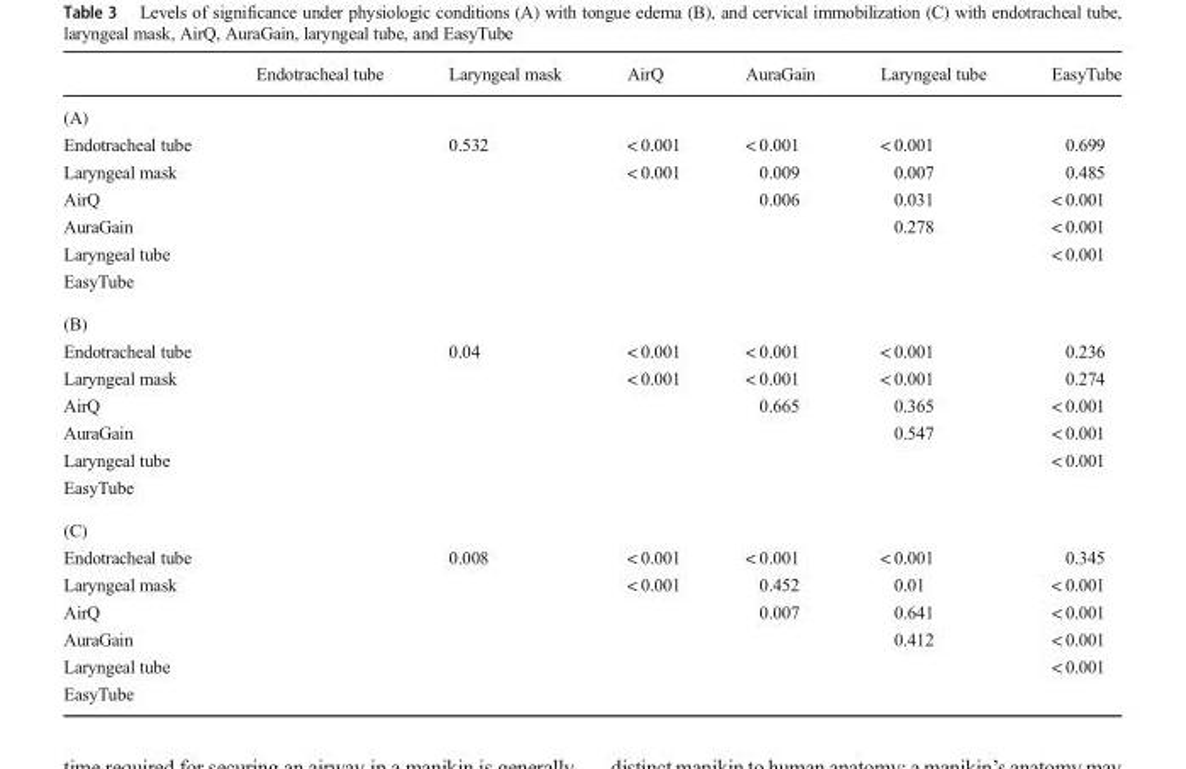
<table><thead><tr><td></td><td>Endotracheal tube</td><td>Laryngeal mask</td><td>AirQ</td><td>AuraGain</td><td>Laryngeal tube</td><td>EasyTube</td></tr></thead><tbody><tr><td colspan="7">(A)</td></tr><tr><td>Endotracheal tube</td><td></td><td>0.532</td><td>&lt; 0.001</td><td>&lt; 0.001</td><td>&lt; 0.001</td><td>0.699</td></tr><tr><td>Laryngeal mask</td><td></td><td></td><td>&lt; 0.001</td><td>0.009</td><td>0.007</td><td>0.485</td></tr><tr><td>AirQ</td><td></td><td></td><td></td><td>0.006</td><td>0.031</td><td>&lt; 0.001</td></tr><tr><td>AuraGain</td><td></td><td></td><td></td><td></td><td>0.278</td><td>&lt; 0.001</td></tr><tr><td>Laryngeal tube</td><td></td><td></td><td></td><td></td><td></td><td>&lt; 0.001</td></tr><tr><td colspan="7">EasyTube</td></tr><tr><td colspan="7">(B)</td></tr><tr><td>Endotracheal tube</td><td></td><td>0.04</td><td>&lt; 0.001</td><td>&lt; 0.001</td><td>&lt; 0.001</td><td>0.236</td></tr><tr><td>Laryngeal mask</td><td></td><td></td><td>&lt; 0.001</td><td>&lt; 0.001</td><td>&lt; 0.001</td><td>0.274</td></tr><tr><td>AirQ</td><td></td><td></td><td></td><td>0.665</td><td>0.365</td><td>&lt; 0.001</td></tr><tr><td>AuraGain</td><td></td><td></td><td></td><td></td><td>0.547</td><td>&lt; 0.001</td></tr><tr><td>Laryngeal tube</td><td></td><td></td><td></td><td></td><td></td><td>&lt; 0.001</td></tr><tr><td colspan="7">EasyTube</td></tr><tr><td colspan="7">(C)</td></tr><tr><td>Endotracheal tube</td><td></td><td>0.008</td><td>&lt; 0.001</td><td>&lt; 0.001</td><td>&lt; 0.001</td><td>0.345</td></tr><tr><td>Laryngeal mask</td><td></td><td></td><td>&lt; 0.001</td><td>0.452</td><td>0.01</td><td>&lt; 0.001</td></tr><tr><td>AirQ</td><td></td><td></td><td></td><td>0.007</td><td>0.641</td><td>&lt; 0.001</td></tr><tr><td>AuraGain</td><td></td><td></td><td></td><td></td><td>0.412</td><td>&lt; 0.001</td></tr><tr><td>Laryngeal tube</td><td></td><td></td><td></td><td></td><td></td><td>&lt; 0.001</td></tr><tr><td>EasyTube</td><td></td><td></td><td></td><td></td><td></td><td></td></tr></tbody></table>